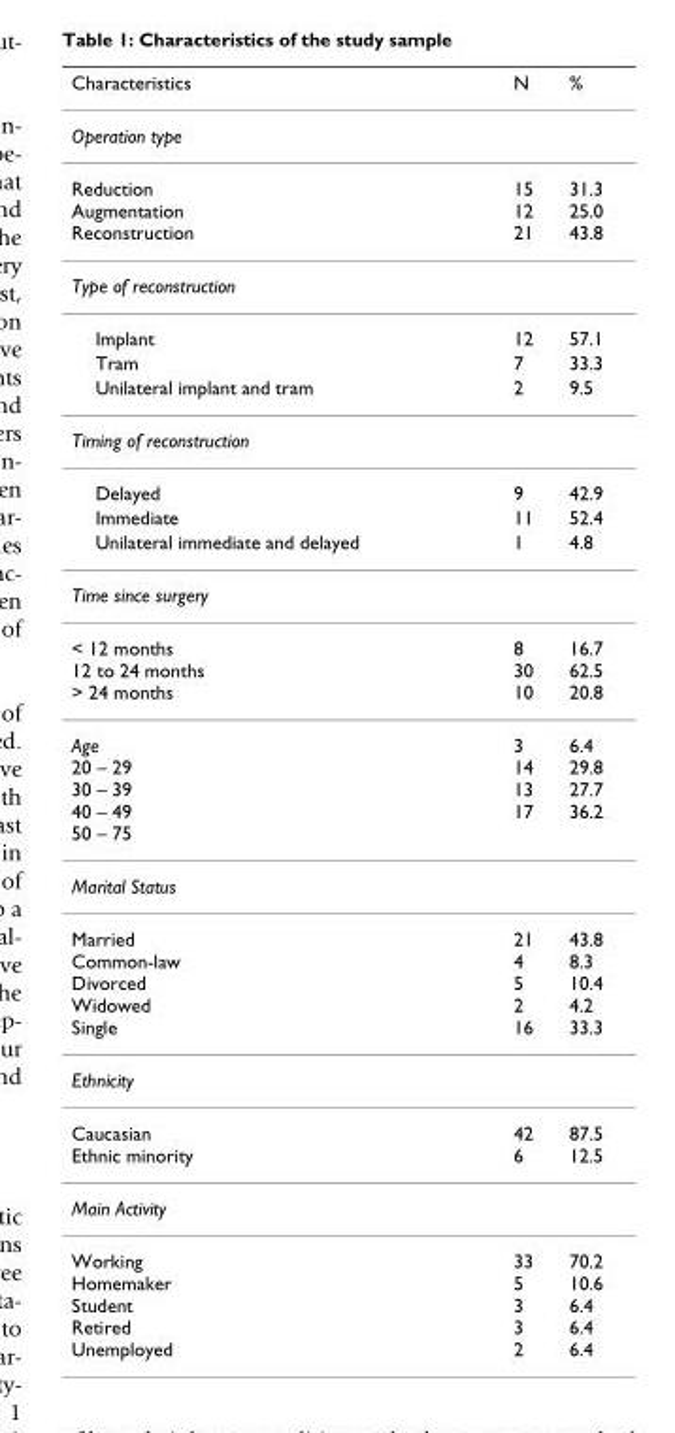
<table><thead><tr><td>Characteristics</td><td>N</td><td>%</td></tr></thead><tbody><tr><td colspan="3">Operation type</td></tr><tr><td>Reduction Augmentation Reconstruction</td><td>15 12 21</td><td>31.3 25.0 43.8</td></tr><tr><td colspan="3">Type of reconstruction</td></tr><tr><td>Implant</td><td>12</td><td>57.1</td></tr><tr><td>Tram</td><td>7</td><td>33.3</td></tr><tr><td>Unilateral implant and tram</td><td>2</td><td>9.5</td></tr><tr><td colspan="3">Timing of reconstruction</td></tr><tr><td>Delayed</td><td>9</td><td>42.9</td></tr><tr><td>Immediate</td><td>11</td><td>52.4</td></tr><tr><td>Unilateral immediate and delayed</td><td>1</td><td>4.8</td></tr><tr><td colspan="3">Time since surgery</td></tr><tr><td>&lt; 12 months 12 to 24 months &gt; 24 months</td><td>8 30 10</td><td>16.7 62.5 20.8</td></tr><tr><td>Age 20 – 29 30 – 39 40 – 49 50 – 75</td><td>3 14 13 17</td><td>6.4 29.8 27.7 36.2</td></tr><tr><td colspan="3">Marital Status</td></tr><tr><td>Married Common-law Divorced Widowed Single</td><td>21 4 5 2 16</td><td>43.8 8.3 10.4 4.2 33.3</td></tr><tr><td colspan="3">Ethnicity</td></tr><tr><td>Caucasian Ethnic minority</td><td>42 6</td><td>87.5 12.5</td></tr><tr><td colspan="3">Main Activity</td></tr><tr><td>Working Homemaker Student Retired Unemployed</td><td>33 5 3 3 2</td><td>70.2 10.6 6.4 6.4 6.4</td></tr></tbody></table>